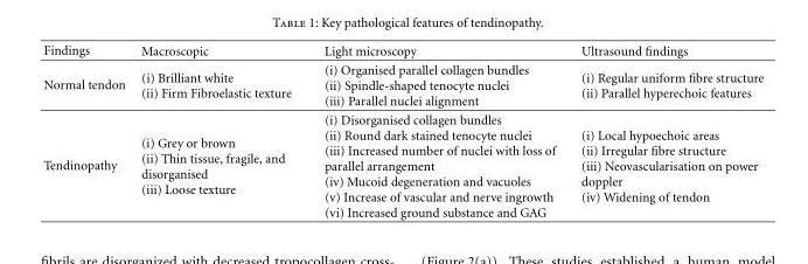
<table><thead><tr><td>Findings</td><td>Macroscopic</td><td>Light microscopy</td><td>Ultrasound findings</td></tr></thead><tbody><tr><td>Normal tendon</td><td>(i) Brilliant white (ii) Firm Fibroelastic texture</td><td>(i) Organised parallel collagen bundles (ii) Spindle-shaped tenocyte nuclei (iii) Parallel nuclei alignment</td><td>(i) Regular uniform fibre structure (ii) Parallel hyperechoic features</td></tr><tr><td>Tendinopathy</td><td>(i) Grey or brown (ii) Thin tissue, fragile, and disorganised (iii) Loose texture</td><td>(i) Disorganised collagen bundles (ii) Round dark stained tenocyte nuclei (iii) Increased number of nuclei with loss of parallel arrangement (iv) Mucoid degeneration and vacuoles (v) Increase of vascular and nerve ingrowth (vi) Increased ground substance and GAG</td><td>(i) Local hypoechoic areas (ii) Irregular fibre structure (iii) Neovascularisation on power doppler (iv) Widening of tendon</td></tr></tbody></table>